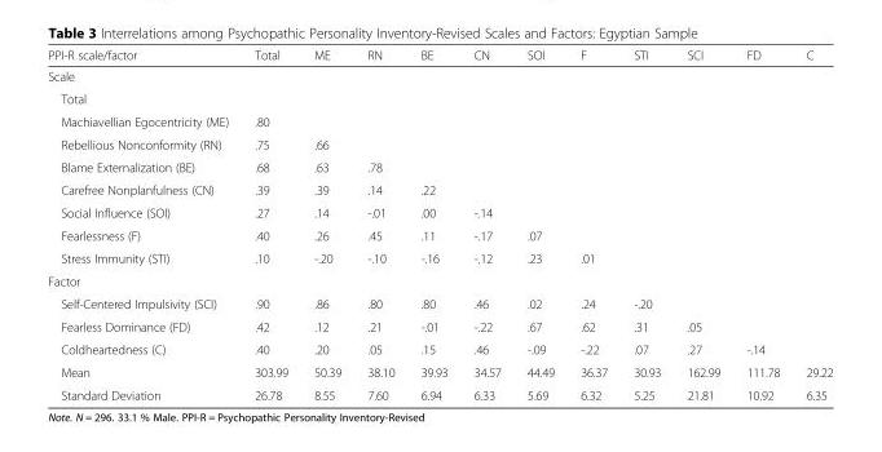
<table><thead><tr><td>PPI-R scale/factor</td><td>Total</td><td>ME</td><td>RN</td><td>BE</td><td>CN</td><td>SOI</td><td>F</td><td>STI</td><td>SCI</td><td>FD</td><td>C</td></tr></thead><tbody><tr><td colspan="12">Scale</td></tr><tr><td colspan="12">Total</td></tr><tr><td>Machiavellian Egocentricity (ME)</td><td>.80</td><td></td><td></td><td></td><td></td><td></td><td></td><td></td><td></td><td></td><td></td></tr><tr><td>Rebellious Nonconformity (RN)</td><td>.75</td><td>.66</td><td></td><td></td><td></td><td></td><td></td><td></td><td></td><td></td><td></td></tr><tr><td>Blame Externalization (BE)</td><td>.68</td><td>.63</td><td>.78</td><td></td><td></td><td></td><td></td><td></td><td></td><td></td><td></td></tr><tr><td>Carefree Nonplanfulness (CN)</td><td>.39</td><td>.39</td><td>.14</td><td>.22</td><td></td><td></td><td></td><td></td><td></td><td></td><td></td></tr><tr><td>Social Influence (SOI)</td><td>.27</td><td>.14</td><td>-.01</td><td>.00</td><td>-.14</td><td></td><td></td><td></td><td></td><td></td><td></td></tr><tr><td>Fearlessness (F)</td><td>.40</td><td>.26</td><td>.45</td><td>.11</td><td>-.17</td><td>.07</td><td></td><td></td><td></td><td></td><td></td></tr><tr><td>Stress Immunity (STI)</td><td>.10</td><td>-.20</td><td>-.10</td><td>-.16</td><td>-.12</td><td>.23</td><td>.01</td><td></td><td></td><td></td><td></td></tr><tr><td colspan="12">Factor</td></tr><tr><td>Self-Centered Impulsivity (SCI)</td><td>.90</td><td>.86</td><td>.80</td><td>.80</td><td>.46</td><td>.02</td><td>.24</td><td>-.20</td><td></td><td></td><td></td></tr><tr><td>Fearless Dominance (FD)</td><td>.42</td><td>.12</td><td>.21</td><td>-.01</td><td>-.22</td><td>.67</td><td>.62</td><td>.31</td><td>.05</td><td></td><td></td></tr><tr><td>Coldheartedness (C)</td><td>.40</td><td>.20</td><td>.05</td><td>.15</td><td>.46</td><td>-.09</td><td>-.22</td><td>.07</td><td>.27</td><td>-.14</td><td></td></tr><tr><td>Mean</td><td>303.99</td><td>50.39</td><td>38.10</td><td>39.93</td><td>34.57</td><td>44.49</td><td>36.37</td><td>30.93</td><td>162.99</td><td>111.78</td><td>29.22</td></tr><tr><td>Standard Deviation</td><td>26.78</td><td>8.55</td><td>7.60</td><td>6.94</td><td>6.33</td><td>5.69</td><td>6.32</td><td>5.25</td><td>21.81</td><td>10.92</td><td>6.35</td></tr></tbody></table>